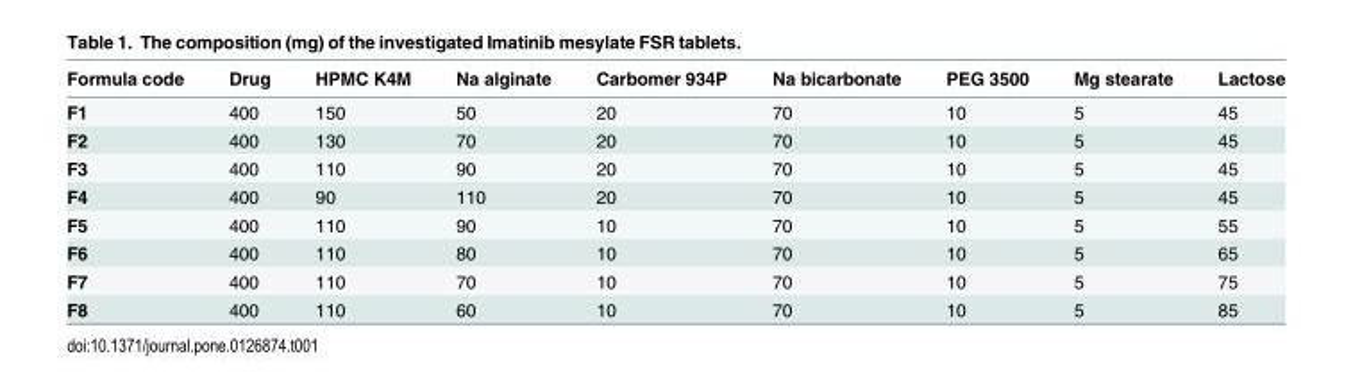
<table><thead><tr><td>Formula code</td><td>Drug</td><td>HPMC K4M</td><td>Na alginate</td><td>Carbomer 934P</td><td>Na bicarbonate</td><td>PEG 3500</td><td>Mg stearate</td><td>Lactose</td></tr></thead><tbody><tr><td>F1</td><td>400</td><td>150</td><td>50</td><td>20</td><td>70</td><td>10</td><td>5</td><td>45</td></tr><tr><td>F2</td><td>400</td><td>130</td><td>70</td><td>20</td><td>70</td><td>10</td><td>5</td><td>45</td></tr><tr><td>F3</td><td>400</td><td>110</td><td>90</td><td>20</td><td>70</td><td>10</td><td>5</td><td>45</td></tr><tr><td>F4</td><td>400</td><td>90</td><td>110</td><td>20</td><td>70</td><td>10</td><td>5</td><td>45</td></tr><tr><td>F5</td><td>400</td><td>110</td><td>90</td><td>10</td><td>70</td><td>10</td><td>5</td><td>55</td></tr><tr><td>F6</td><td>400</td><td>110</td><td>80</td><td>10</td><td>70</td><td>10</td><td>5</td><td>65</td></tr><tr><td>F7</td><td>400</td><td>110</td><td>70</td><td>10</td><td>70</td><td>10</td><td>5</td><td>75</td></tr><tr><td>F8</td><td>400</td><td>110</td><td>60</td><td>10</td><td>70</td><td>10</td><td>5</td><td>85</td></tr></tbody></table>